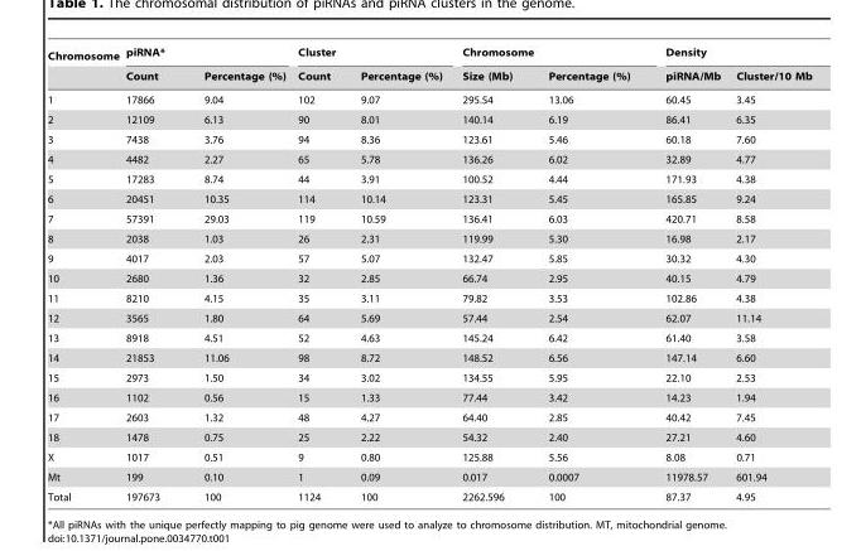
<table><thead><tr><td rowspan="2">Chromosome</td><td colspan="2">piRNA*</td><td colspan="2">Cluster</td><td colspan="2">Chromosome</td><td colspan="2">Density</td></tr><tr><td>Count</td><td>Percentage (%)</td><td>Count</td><td>Percentage (%)</td><td>Size (Mb)</td><td>Percentage (%)</td><td>piRNA/Mb</td><td>Cluster/10 Mb</td></tr></thead><tbody><tr><td>1</td><td>17866</td><td>9.04</td><td>102</td><td>9.07</td><td>295.54</td><td>13.06</td><td>60.45</td><td>3.45</td></tr><tr><td>2</td><td>12109</td><td>6.13</td><td>90</td><td>8.01</td><td>140.14</td><td>6.19</td><td>86.41</td><td>6.35</td></tr><tr><td>3</td><td>7438</td><td>3.76</td><td>94</td><td>8.36</td><td>123.61</td><td>5.46</td><td>60.18</td><td>7.60</td></tr><tr><td>4</td><td>4482</td><td>2.27</td><td>65</td><td>5.78</td><td>136.26</td><td>6.02</td><td>32.89</td><td>4.77</td></tr><tr><td>5</td><td>17283</td><td>8.74</td><td>44</td><td>3.91</td><td>100.52</td><td>4.44</td><td>171.93</td><td>4.38</td></tr><tr><td>6</td><td>20451</td><td>10.35</td><td>114</td><td>10.14</td><td>123.31</td><td>5.45</td><td>165.85</td><td>9.24</td></tr><tr><td>7</td><td>57391</td><td>29.03</td><td>119</td><td>10.59</td><td>136.41</td><td>6.03</td><td>420.71</td><td>8.58</td></tr><tr><td>8</td><td>2038</td><td>1.03</td><td>26</td><td>2.31</td><td>119.99</td><td>5.30</td><td>16.98</td><td>2.17</td></tr><tr><td>9</td><td>4017</td><td>2.03</td><td>57</td><td>5.07</td><td>132.47</td><td>5.85</td><td>30.32</td><td>4.30</td></tr><tr><td>10</td><td>2680</td><td>1.36</td><td>32</td><td>2.85</td><td>66.74</td><td>2.95</td><td>40.15</td><td>4.79</td></tr><tr><td>11</td><td>8210</td><td>4.15</td><td>35</td><td>3.11</td><td>79.82</td><td>3.53</td><td>102.86</td><td>4.38</td></tr><tr><td>12</td><td>3565</td><td>1.80</td><td>64</td><td>5.69</td><td>57.44</td><td>2.54</td><td>62.07</td><td>11.14</td></tr><tr><td>13</td><td>8918</td><td>4.51</td><td>52</td><td>4.63</td><td>145.24</td><td>6.42</td><td>61.40</td><td>3.58</td></tr><tr><td>14</td><td>21853</td><td>11.06</td><td>98</td><td>8.72</td><td>148.52</td><td>6.56</td><td>147.14</td><td>6.60</td></tr><tr><td>15</td><td>2973</td><td>1.50</td><td>34</td><td>3.02</td><td>134.55</td><td>5.95</td><td>22.10</td><td>2.53</td></tr><tr><td>16</td><td>1102</td><td>0.56</td><td>15</td><td>1.33</td><td>77.44</td><td>3.42</td><td>14.23</td><td>1.94</td></tr><tr><td>17</td><td>2603</td><td>1.32</td><td>48</td><td>4.27</td><td>64.40</td><td>2.85</td><td>40.42</td><td>7.45</td></tr><tr><td>18</td><td>1478</td><td>0.75</td><td>25</td><td>2.22</td><td>54.32</td><td>2.40</td><td>27.21</td><td>4.60</td></tr><tr><td>X</td><td>1017</td><td>0.51</td><td>9</td><td>0.80</td><td>125.88</td><td>5.56</td><td>8.08</td><td>0.71</td></tr><tr><td>Mt</td><td>199</td><td>0.10</td><td>1</td><td>0.09</td><td>0.017</td><td>0.0007</td><td>11978.57</td><td>601.94</td></tr><tr><td>Total</td><td>197673</td><td>100</td><td>1124</td><td>100</td><td>2262.596</td><td>100</td><td>87.37</td><td>4.95</td></tr></tbody></table>